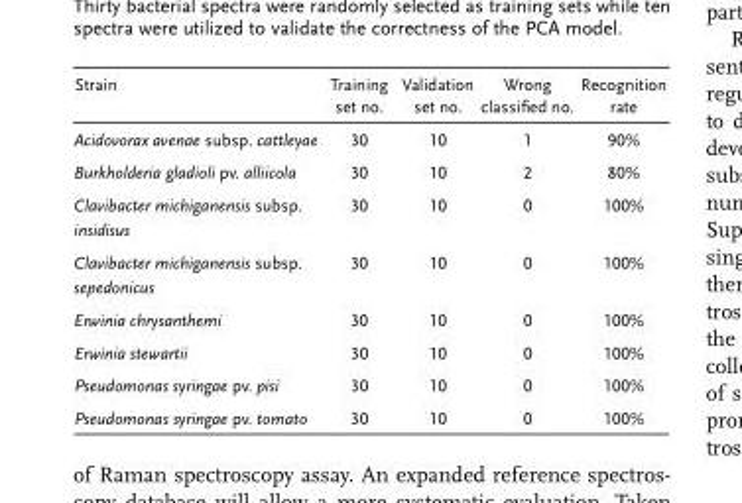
<table><thead><tr><td>Strain</td><td>Training set no.</td><td>Validation set no.</td><td>Wrong classified no.</td><td>Recognition rate</td></tr></thead><tbody><tr><td>Acidovorax avenae subsp. cattleyae</td><td>30</td><td>10</td><td>1</td><td>90%</td></tr><tr><td>Burkholderia gladioli pv. alliicola</td><td>30</td><td>10</td><td>2</td><td>80%</td></tr><tr><td>Clavibacter michiganensis subsp. insidisus</td><td>30</td><td>10</td><td>0</td><td>100%</td></tr><tr><td>Clavibacter michiganensis subsp. sepedonicus</td><td>30</td><td>10</td><td>0</td><td>100%</td></tr><tr><td>Erwinia chrysanthemi</td><td>30</td><td>10</td><td>0</td><td>100%</td></tr><tr><td>Erwinia stewartii</td><td>30</td><td>10</td><td>0</td><td>100%</td></tr><tr><td>Pseudomonas syringae pv. pisi</td><td>30</td><td>10</td><td>0</td><td>100%</td></tr><tr><td>Pseudomonas syringae pv. tomato</td><td>30</td><td>10</td><td>0</td><td>100%</td></tr></tbody></table>